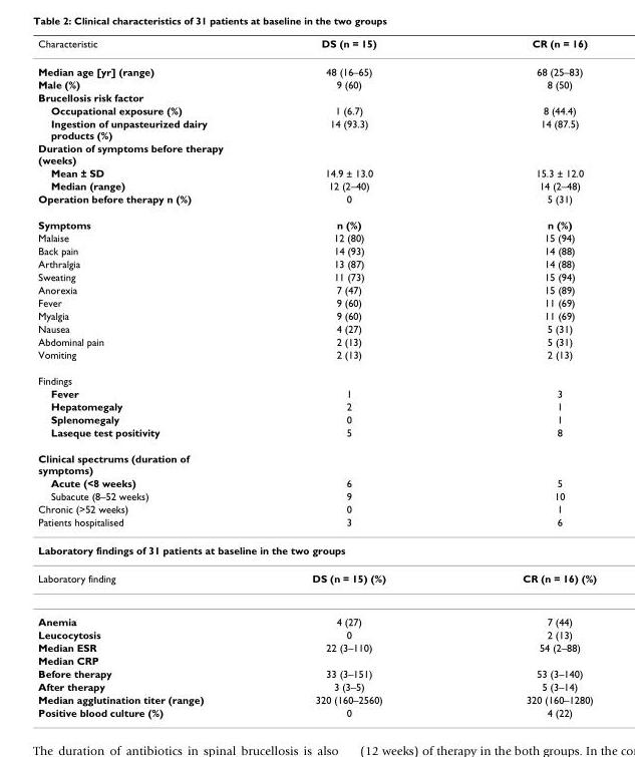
<table><thead><tr><td>Characteristic</td><td>DS (n = 15)</td><td>CR (n = 16)</td></tr></thead><tbody><tr><td>Median age [yr] (range)</td><td>48 (16–65)</td><td>68 (25–83)</td></tr><tr><td>Male (%)</td><td>9 (60)</td><td>8 (50)</td></tr><tr><td colspan="3">Brucellosis risk factor</td></tr><tr><td>Occupational exposure (%)</td><td>1 (6.7)</td><td>8 (44.4)</td></tr><tr><td>Ingestion of unpasteurized dairy products (%)</td><td>14 (93.3)</td><td>14 (87.5)</td></tr><tr><td colspan="3">Duration of symptoms before therapy (weeks)</td></tr><tr><td>Mean ± SD</td><td>14.9 ± 13.0</td><td>15.3 ± 12.0</td></tr><tr><td>Median (range)</td><td>12 (2–40)</td><td>14 (2–48)</td></tr><tr><td>Operation before therapy n (%)</td><td>0</td><td>5 (31)</td></tr><tr><td>Symptoms</td><td>n (%)</td><td>n (%)</td></tr><tr><td>Malaise</td><td>12 (80)</td><td>15 (94)</td></tr><tr><td>Back pain</td><td>14 (93)</td><td>14 (88)</td></tr><tr><td>Arthralgia</td><td>13 (87)</td><td>14 (88)</td></tr><tr><td>Sweating</td><td>11 (73)</td><td>15 (94)</td></tr><tr><td>Anorexia</td><td>7 (47)</td><td>15 (89)</td></tr><tr><td>Fever</td><td>9 (60)</td><td>11 (69)</td></tr><tr><td>Myalgia</td><td>9 (60)</td><td>11 (69)</td></tr><tr><td>Nausea</td><td>4 (27)</td><td>5 (31)</td></tr><tr><td>Abdominal pain</td><td>2 (13)</td><td>5 (31)</td></tr><tr><td>Vomiting</td><td>2 (13)</td><td>2 (13)</td></tr><tr><td colspan="3">Findings</td></tr><tr><td>Fever</td><td>1</td><td>3</td></tr><tr><td>Hepatomegaly</td><td>2</td><td>1</td></tr><tr><td>Splenomegaly</td><td>0</td><td>1</td></tr><tr><td>Laseque test positivity</td><td>5</td><td>8</td></tr><tr><td colspan="3">Clinical spectrums (duration of symptoms)</td></tr><tr><td>Acute (&lt;8 weeks)</td><td>6</td><td>5</td></tr><tr><td>Subacute (8–52 weeks)</td><td>9</td><td>10</td></tr><tr><td>Chronic (&gt;52 weeks)</td><td>0</td><td>1</td></tr><tr><td>Patients hospitalised</td><td>3</td><td>6</td></tr><tr><td colspan="3">Laboratory findings of 31 patients at baseline in the two groups</td></tr><tr><td>Laboratory finding</td><td>DS (n = 15) (%)</td><td>CR (n = 16) (%)</td></tr><tr><td>Anemia</td><td>4 (27)</td><td>7 (44)</td></tr><tr><td>Leucocytosis</td><td>0</td><td>2 (13)</td></tr><tr><td>Median ESR</td><td>22 (3–110)</td><td>54 (2–88)</td></tr><tr><td colspan="3">Median CRP</td></tr><tr><td>Before therapy</td><td>33 (3–151)</td><td>53 (3–140)</td></tr><tr><td>After therapy</td><td>3 (3–5)</td><td>5 (3–14)</td></tr><tr><td>Median agglutination titer (range)</td><td>320 (160–2560)</td><td>320 (160–1280)</td></tr><tr><td>Positive blood culture (%)</td><td>0</td><td>4 (22)</td></tr></tbody></table>